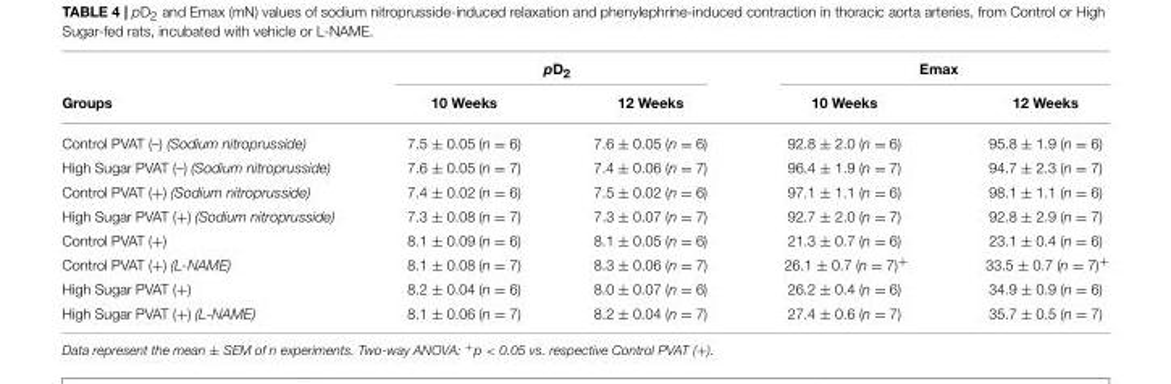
<table><thead><tr><td rowspan="2">Groups</td><td colspan="2">pD<sub>2</sub></td><td colspan="2">Emax</td></tr><tr><td>10 Weeks</td><td>12 Weeks</td><td>10 Weeks</td><td>12 Weeks</td></tr></thead><tbody><tr><td>Control PVAT (–) (Sodium nitroprusside)</td><td>7.5 ± 0.05 (n = 6)</td><td>7.6 ± 0.05 (n = 6)</td><td>92.8 ± 2.0 (n = 6)</td><td>95.8 ± 1.9 (n = 6)</td></tr><tr><td>High Sugar PVAT (–) (Sodium nitroprusside)</td><td>7.6 ± 0.05 (n = 7)</td><td>7.4 ± 0.06 (n = 7)</td><td>96.4 ± 1.9 (n = 7)</td><td>94.7 ± 2.3 (n = 7)</td></tr><tr><td>Control PVAT (+) (Sodium nitroprusside)</td><td>7.4 ± 0.02 (n = 6)</td><td>7.5 ± 0.02 (n = 6)</td><td>97.1 ± 1.1 (n = 6)</td><td>98.1 ± 1.1 (n = 6)</td></tr><tr><td>High Sugar PVAT (+) (Sodium nitroprusside)</td><td>7.3 ± 0.08 (n = 7)</td><td>7.3 ± 0.07 (n = 7)</td><td>92.7 ± 2.0 (n = 7)</td><td>92.8 ± 2.9 (n = 7)</td></tr><tr><td>Control PVAT (+)</td><td>8.1 ± 0.09 (n = 6)</td><td>8.1 ± 0.05 (n = 6)</td><td>21.3 ± 0.7 (n = 6)</td><td>23.1 ± 0.4 (n = 6)</td></tr><tr><td>Control PVAT (+) (L-NAME)</td><td>8.1 ± 0.08 (n = 7)</td><td>8.3 ± 0.06 (n = 7)</td><td>26.1 ± 0.7 (n = 7)<sup>+</sup></td><td>33.5 ± 0.7 (n = 7)<sup>+</sup></td></tr><tr><td>High Sugar PVAT (+)</td><td>8.2 ± 0.04 (n = 6)</td><td>8.0 ± 0.07 (n = 6)</td><td>26.2 ± 0.4 (n = 6)</td><td>34.9 ± 0.9 (n = 6)</td></tr><tr><td>High Sugar PVAT (+) (L-NAME)</td><td>8.1 ± 0.06 (n = 7)</td><td>8.2 ± 0.04 (n = 7)</td><td>27.4 ± 0.6 (n = 7)</td><td>35.7 ± 0.5 (n = 7)</td></tr></tbody></table>